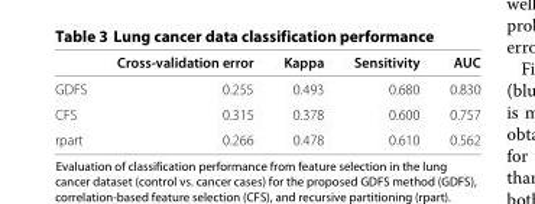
<table><thead><tr><td></td><td>Cross-validation error</td><td>Kappa</td><td>Sensitivity</td><td>AUC</td></tr></thead><tbody><tr><td>GDFS</td><td>0.255</td><td>0.493</td><td>0.680</td><td>0.830</td></tr><tr><td>CFS</td><td>0.315</td><td>0.378</td><td>0.600</td><td>0.757</td></tr><tr><td>rpart</td><td>0.266</td><td>0.478</td><td>0.610</td><td>0.562</td></tr></tbody></table>